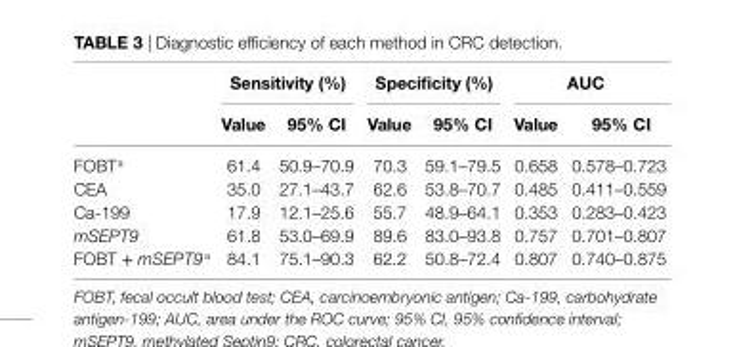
<table><thead><tr><td rowspan="2"></td><td colspan="2">sensitivity (%)</td><td colspan="2">specificity (%)</td><td colspan="2">aUc</td></tr><tr><td>Value</td><td>95% ci</td><td>Value</td><td>95% ci</td><td>Value</td><td>95% ci</td></tr></thead><tbody><tr><td>FOBT<sup>a</sup></td><td>61.4</td><td>50.9–70.9</td><td>70.3</td><td>59.1–79.5</td><td>0.658</td><td>0.578–0.723</td></tr><tr><td>CEA</td><td>35.0</td><td>27.1–43.7</td><td>62.6</td><td>53.8–70.7</td><td>0.485</td><td>0.411–0.559</td></tr><tr><td>Ca-199</td><td>17.9</td><td>12.1–25.6</td><td>55.7</td><td>48.9–64.1</td><td>0.353</td><td>0.283–0.423</td></tr><tr><td>mSEPT9</td><td>61.8</td><td>53.0–69.9</td><td>89.6</td><td>83.0–93.8</td><td>0.757</td><td>0.701–0.807</td></tr><tr><td>FOBT + mSEPT9 <sup>a</sup></td><td>84.1</td><td>75.1–90.3</td><td>62.2</td><td>50.8–72.4</td><td>0.807</td><td>0.740–0.875</td></tr></tbody></table>